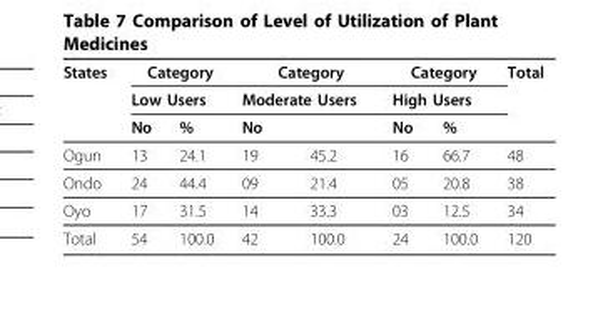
<table><thead><tr><td rowspan="3">States</td><td rowspan="2" colspan="2">Category Low Users</td><td rowspan="2" colspan="2">Category Moderate Users</td><td rowspan="2" colspan="2">Category High Users</td><td rowspan="3">Total</td></tr><tr></tr><tr><td>No</td><td>%</td><td>No</td><td></td><td>No</td><td>%</td></tr></thead><tbody><tr><td>Ogun</td><td>13</td><td>24.1</td><td>19</td><td>45.2</td><td>16</td><td>66.7</td><td>48</td></tr><tr><td>Ondo</td><td>24</td><td>44.4</td><td>09</td><td>21.4</td><td>05</td><td>20.8</td><td>38</td></tr><tr><td>Oyo</td><td>17</td><td>31.5</td><td>14</td><td>33.3</td><td>03</td><td>12.5</td><td>34</td></tr><tr><td>Total</td><td>54</td><td>100.0</td><td>42</td><td>100.0</td><td>24</td><td>100.0</td><td>120</td></tr></tbody></table>